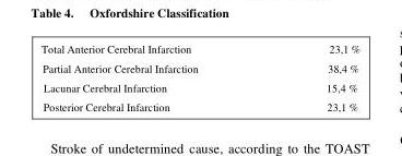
<table><tbody><tr><td>Total Anterior Cerebral Infarction</td><td>23,1 %</td></tr><tr><td>Partial Anterior Cerebral Infarction</td><td>38,4 %</td></tr><tr><td>Lacunar Cerebral Infarction</td><td>15,4 %</td></tr><tr><td>Posterior Cerebral Infarction</td><td>23,1 %</td></tr></tbody></table>